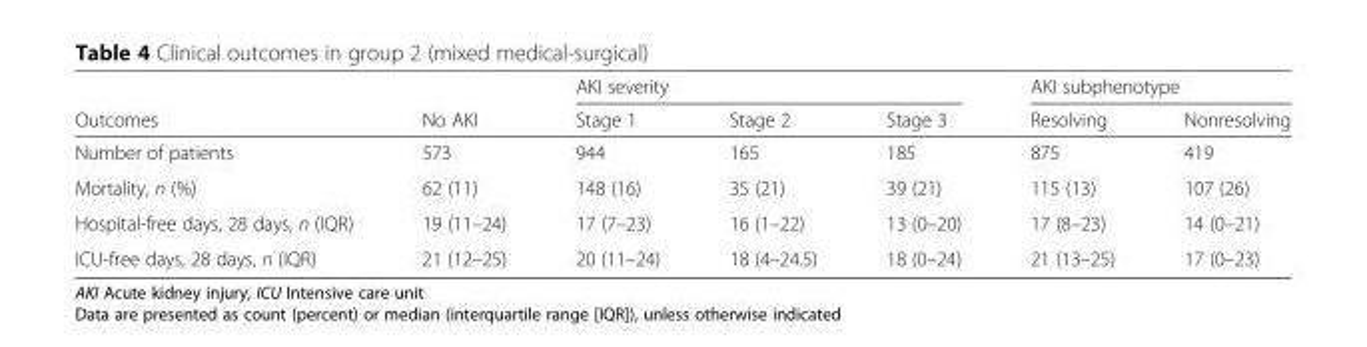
<table><thead><tr><td rowspan="2">Outcomes</td><td rowspan="2">No AKI</td><td colspan="3">AKI severity</td><td colspan="2">AKI subphenotype</td></tr><tr><td>Stage 1</td><td>Stage 2</td><td>Stage 3</td><td>Resolving</td><td>Nonresolving</td></tr></thead><tbody><tr><td>Number of patients</td><td>573</td><td>944</td><td>165</td><td>185</td><td>875</td><td>419</td></tr><tr><td>Mortality, n (%)</td><td>62 (11)</td><td>148 (16)</td><td>35 (21)</td><td>39 (21)</td><td>115 (13)</td><td>107 (26)</td></tr><tr><td>Hospital-free days, 28 days, n (IQR)</td><td>19 (11–24)</td><td>17 (7–23)</td><td>16 (1–22)</td><td>13 (0–20)</td><td>17 (8–23)</td><td>14 (0–21)</td></tr><tr><td>ICU-free days, 28 days, n (IQR)</td><td>21 (12–25)</td><td>20 (11–24)</td><td>18 (4–24.5)</td><td>18 (0–24)</td><td>21 (13–25)</td><td>17 (0–23)</td></tr></tbody></table>